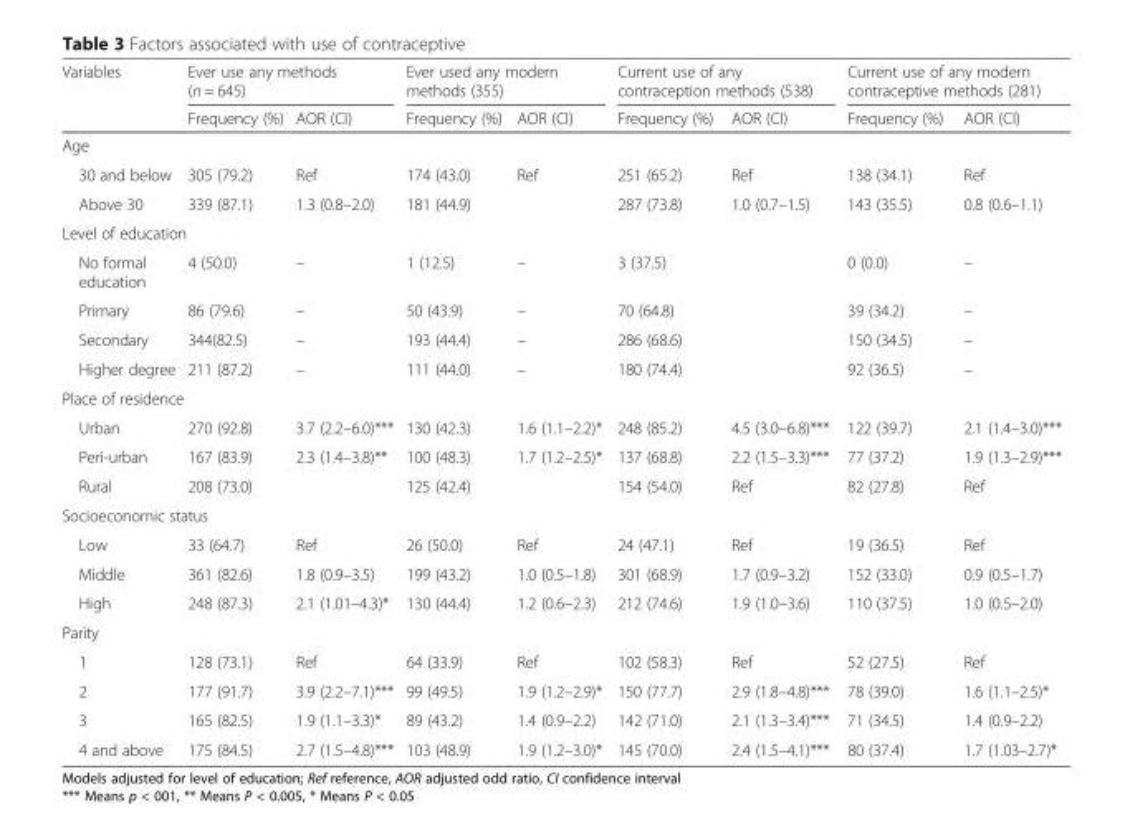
<table><thead><tr><td rowspan="2">Variables</td><td colspan="2">Ever use any methods (n = 645)</td><td colspan="2">Ever used any modern methods (355)</td><td colspan="2">Current use of any contraception methods (538)</td><td colspan="2">Current use of any modern contraceptive methods (281)</td></tr><tr><td>Frequency (%)</td><td>AOR (CI)</td><td>Frequency (%)</td><td>AOR (CI)</td><td>Frequency (%)</td><td>AOR (CI)</td><td>Frequency (%)</td><td>AOR (CI)</td></tr></thead><tbody><tr><td colspan="9">Age</td></tr><tr><td>30 and below</td><td>305 (79.2)</td><td>Ref</td><td>174 (43.0)</td><td>Ref</td><td>251 (65.2)</td><td>Ref</td><td>138 (34.1)</td><td>Ref</td></tr><tr><td>Above 30</td><td>339 (87.1)</td><td>1.3 (0.8–2.0)</td><td>181 (44.9)</td><td></td><td>287 (73.8)</td><td>1.0 (0.7–1.5)</td><td>143 (35.5)</td><td>0.8 (0.6–1.1)</td></tr><tr><td colspan="9">Level of education</td></tr><tr><td>No formal education</td><td>4 (50.0)</td><td>–</td><td>1 (12.5)</td><td>–</td><td>3 (37.5)</td><td></td><td>0 (0.0)</td><td>–</td></tr><tr><td>Primary</td><td>86 (79.6)</td><td>–</td><td>50 (43.9)</td><td>–</td><td>70 (64.8)</td><td></td><td>39 (34.2)</td><td>–</td></tr><tr><td>Secondary</td><td>344(82.5)</td><td>–</td><td>193 (44.4)</td><td>–</td><td>286 (68.6)</td><td></td><td>150 (34.5)</td><td>–</td></tr><tr><td>Higher degree</td><td>211 (87.2)</td><td>–</td><td>111 (44.0)</td><td>–</td><td>180 (74.4)</td><td></td><td>92 (36.5)</td><td>–</td></tr><tr><td colspan="9">Place of residence</td></tr><tr><td>Urban</td><td>270 (92.8)</td><td>3.7 (2.2–6.0)***</td><td>130 (42.3)</td><td>1.6 (1.1–2.2)*</td><td>248 (85.2)</td><td>4.5 (3.0–6.8)***</td><td>122 (39.7)</td><td>2.1 (1.4–3.0)***</td></tr><tr><td>Peri-urban</td><td>167 (83.9)</td><td>2.3 (1.4–3.8)**</td><td>100 (48.3)</td><td>1.7 (1.2–2.5)*</td><td>137 (68.8)</td><td>2.2 (1.5–3.3)***</td><td>77 (37.2)</td><td>1.9 (1.3–2.9)***</td></tr><tr><td>Rural</td><td>208 (73.0)</td><td></td><td>125 (42.4)</td><td></td><td>154 (54.0)</td><td>Ref</td><td>82 (27.8)</td><td>Ref</td></tr><tr><td colspan="9">Socioeconomic status</td></tr><tr><td>Low</td><td>33 (64.7)</td><td>Ref</td><td>26 (50.0)</td><td>Ref</td><td>24 (47.1)</td><td>Ref</td><td>19 (36.5)</td><td>Ref</td></tr><tr><td>Middle</td><td>361 (82.6)</td><td>1.8 (0.9–3.5)</td><td>199 (43.2)</td><td>1.0 (0.5–1.8)</td><td>301 (68.9)</td><td>1.7 (0.9–3.2)</td><td>152 (33.0)</td><td>0.9 (0.5–1.7)</td></tr><tr><td>High</td><td>248 (87.3)</td><td>2.1 (1.01–4.3)*</td><td>130 (44.4)</td><td>1.2 (0.6–2.3)</td><td>212 (74.6)</td><td>1.9 (1.0–3.6)</td><td>110 (37.5)</td><td>1.0 (0.5–2.0)</td></tr><tr><td colspan="9">Parity</td></tr><tr><td>1</td><td>128 (73.1)</td><td>Ref</td><td>64 (33.9)</td><td>Ref</td><td>102 (58.3)</td><td>Ref</td><td>52 (27.5)</td><td>Ref</td></tr><tr><td>2</td><td>177 (91.7)</td><td>3.9 (2.2–7.1)***</td><td>99 (49.5)</td><td>1.9 (1.2–2.9)*</td><td>150 (77.7)</td><td>2.9 (1.8–4.8)***</td><td>78 (39.0)</td><td>1.6 (1.1–2.5)*</td></tr><tr><td>3</td><td>165 (82.5)</td><td>1.9 (1.1–3.3)*</td><td>89 (43.2)</td><td>1.4 (0.9–2.2)</td><td>142 (71.0)</td><td>2.1 (1.3–3.4)***</td><td>71 (34.5)</td><td>1.4 (0.9–2.2)</td></tr><tr><td>4 and above</td><td>175 (84.5)</td><td>2.7 (1.5–4.8)***</td><td>103 (48.9)</td><td>1.9 (1.2–3.0)*</td><td>145 (70.0)</td><td>2.4 (1.5–4.1)***</td><td>80 (37.4)</td><td>1.7 (1.03–2.7)*</td></tr></tbody></table>